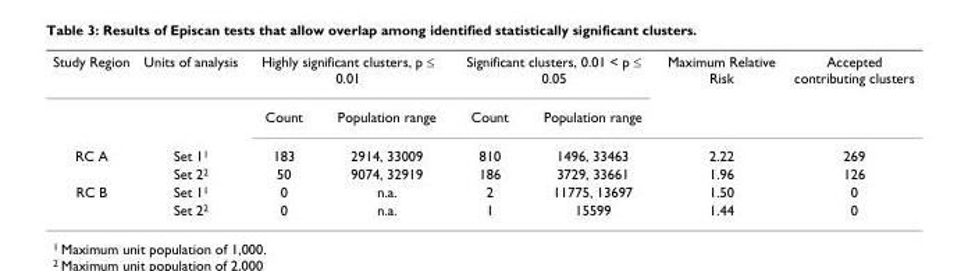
<table><tbody><tr><td rowspan="2">Study Region</td><td>Units of analysis</td><td colspan="2">Highly significant clusters, p ≤ 0.01</td><td colspan="2">Significant clusters, 0.01 &lt; p ≤ 0.05</td><td>Maximum Relative Risk</td><td>Accepted contributing clusters</td></tr><tr><td></td><td>Count</td><td>Population range</td><td>Count</td><td>Population range</td><td></td><td></td></tr><tr><td rowspan="2">RC A</td><td>Set 1<sup>1</sup></td><td>183</td><td>2914, 33009</td><td>810</td><td>1496, 33463</td><td>2.22</td><td>269</td></tr><tr><td>Set 2<sup>2</sup></td><td>50</td><td>9074, 32919</td><td>186</td><td>3729, 33661</td><td>1.96</td><td>126</td></tr><tr><td rowspan="2">RC B</td><td>Set 1<sup>1</sup></td><td>0</td><td>n.a.</td><td>2</td><td>11775, 13697</td><td>1.50</td><td>0</td></tr><tr><td>Set 2<sup>2</sup></td><td>0</td><td>n.a.</td><td>1</td><td>15599</td><td>1.44</td><td>0</td></tr></tbody></table>